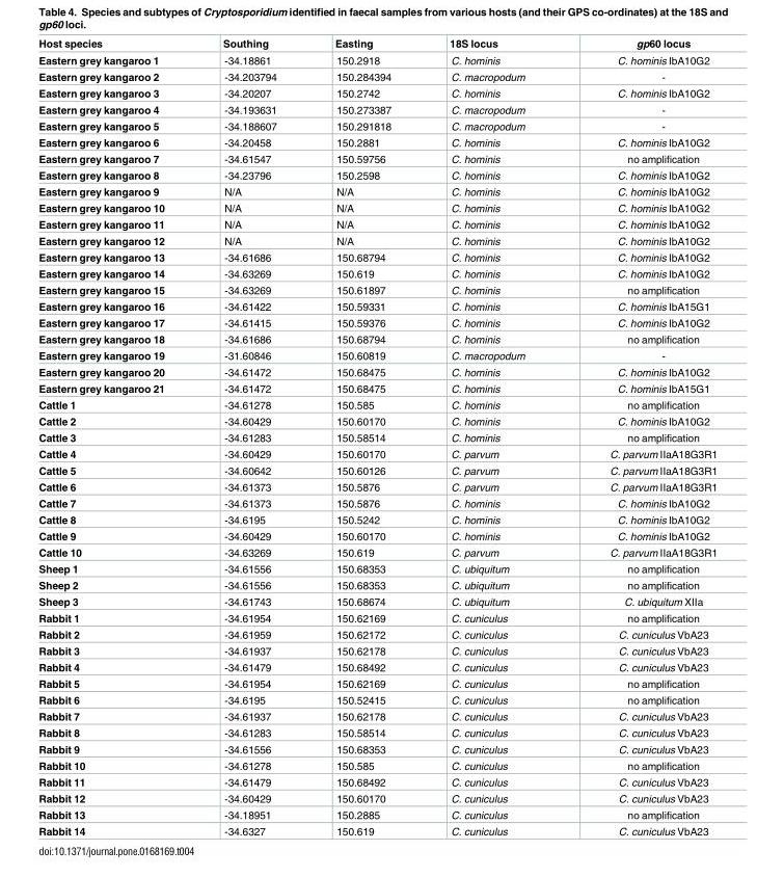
<table><thead><tr><td>Host species</td><td>Southing</td><td>Easting</td><td>18S locus</td><td>gp60 locus</td></tr></thead><tbody><tr><td>Eastern grey kangaroo 1</td><td>-34.18861</td><td>150.2918</td><td>C. hominis</td><td>C. hominis IbA10G2</td></tr><tr><td>Eastern grey kangaroo 2</td><td>-34.203794</td><td>150.284394</td><td>C. macropodum</td><td>-</td></tr><tr><td>Eastern grey kangaroo 3</td><td>-34.20207</td><td>150.2742</td><td>C. hominis</td><td>C. hominis IbA10G2</td></tr><tr><td>Eastern grey kangaroo 4</td><td>-34.193631</td><td>150.273387</td><td>C. macropodum</td><td>-</td></tr><tr><td>Eastern grey kangaroo 5</td><td>-34.188607</td><td>150.291818</td><td>C. macropodum</td><td>-</td></tr><tr><td>Eastern grey kangaroo 6</td><td>-34.20458</td><td>150.2881</td><td>C. hominis</td><td>C. hominis IbA10G2</td></tr><tr><td>Eastern grey kangaroo 7</td><td>-34.61547</td><td>150.59756</td><td>C. hominis</td><td>no amplification</td></tr><tr><td>Eastern grey kangaroo 8</td><td>-34.23796</td><td>150.2598</td><td>C. hominis</td><td>C. hominis IbA10G2</td></tr><tr><td>Eastern grey kangaroo 9</td><td>N/A</td><td>N/A</td><td>C. hominis</td><td>C. hominis IbA10G2</td></tr><tr><td>Eastern grey kangaroo 10</td><td>N/A</td><td>N/A</td><td>C. hominis</td><td>C. hominis IbA10G2</td></tr><tr><td>Eastern grey kangaroo 11</td><td>N/A</td><td>N/A</td><td>C. hominis</td><td>C. hominis IbA10G2</td></tr><tr><td>Eastern grey kangaroo 12</td><td>N/A</td><td>N/A</td><td>C. hominis</td><td>C. hominis IbA10G2</td></tr><tr><td>Eastern grey kangaroo 13</td><td>-34.61686</td><td>150.68794</td><td>C. hominis</td><td>C. hominis IbA10G2</td></tr><tr><td>Eastern grey kangaroo 14</td><td>-34.63269</td><td>150.619</td><td>C. hominis</td><td>C. hominis IbA10G2</td></tr><tr><td>Eastern grey kangaroo 15</td><td>-34.63269</td><td>150.61897</td><td>C. hominis</td><td>no amplification</td></tr><tr><td>Eastern grey kangaroo 16</td><td>-34.61422</td><td>150.59331</td><td>C. hominis</td><td>C. hominis IbA15G1</td></tr><tr><td>Eastern grey kangaroo 17</td><td>-34.61415</td><td>150.59376</td><td>C. hominis</td><td>C. hominis IbA10G2</td></tr><tr><td>Eastern grey kangaroo 18</td><td>-34.61686</td><td>150.68794</td><td>C. hominis</td><td>no amplification</td></tr><tr><td>Eastern grey kangaroo 19</td><td>-31.60846</td><td>150.60819</td><td>C. macropodum</td><td>-</td></tr><tr><td>Eastern grey kangaroo 20</td><td>-34.61472</td><td>150.68475</td><td>C. hominis</td><td>C. hominis IbA10G2</td></tr><tr><td>Eastern grey kangaroo 21</td><td>-34.61472</td><td>150.68475</td><td>C. hominis</td><td>C. hominis IbA15G1</td></tr><tr><td>Cattle 1</td><td>-34.61278</td><td>150.585</td><td>C. hominis</td><td>no amplification</td></tr><tr><td>Cattle 2</td><td>-34.60429</td><td>150.60170</td><td>C. hominis</td><td>C. hominis IbA10G2</td></tr><tr><td>Cattle 3</td><td>-34.61283</td><td>150.58514</td><td>C. hominis</td><td>no amplification</td></tr><tr><td>Cattle 4</td><td>-34.60429</td><td>150.60170</td><td>C. parvum</td><td>C. parvum IIaA18G3R1</td></tr><tr><td>Cattle 5</td><td>-34.60642</td><td>150.60126</td><td>C. parvum</td><td>C. parvum IIaA18G3R1</td></tr><tr><td>Cattle 6</td><td>-34.61373</td><td>150.5876</td><td>C. parvum</td><td>C. parvum IIaA18G3R1</td></tr><tr><td>Cattle 7</td><td>-34.61373</td><td>150.5876</td><td>C. hominis</td><td>C. hominis IbA10G2</td></tr><tr><td>Cattle 8</td><td>-34.6195</td><td>150.5242</td><td>C. hominis</td><td>C. hominis IbA10G2</td></tr><tr><td>Cattle 9</td><td>-34.60429</td><td>150.60170</td><td>C. hominis</td><td>C. hominis IbA10G2</td></tr><tr><td>Cattle 10</td><td>-34.63269</td><td>150.619</td><td>C. parvum</td><td>C. parvum IIaA18G3R1</td></tr><tr><td>Sheep 1</td><td>-34.61556</td><td>150.68353</td><td>C. ubiquitum</td><td>no amplification</td></tr><tr><td>Sheep 2</td><td>-34.61556</td><td>150.68353</td><td>C. ubiquitum</td><td>no amplification</td></tr><tr><td>Sheep 3</td><td>-34.61743</td><td>150.68674</td><td>C. ubiquitum</td><td>C. ubiquitum XIIa</td></tr><tr><td>Rabbit 1</td><td>-34.61954</td><td>150.62169</td><td>C. cuniculus</td><td>no amplification</td></tr><tr><td>Rabbit 2</td><td>-34.61959</td><td>150.62172</td><td>C. cuniculus</td><td>C. cuniculus VbA23</td></tr><tr><td>Rabbit 3</td><td>-34.61937</td><td>150.62178</td><td>C. cuniculus</td><td>C. cuniculus VbA23</td></tr><tr><td>Rabbit 4</td><td>-34.61479</td><td>150.68492</td><td>C. cuniculus</td><td>C. cuniculus VbA23</td></tr><tr><td>Rabbit 5</td><td>-34.61954</td><td>150.62169</td><td>C. cuniculus</td><td>no amplification</td></tr><tr><td>Rabbit 6</td><td>-34.6195</td><td>150.52415</td><td>C. cuniculus</td><td>no amplification</td></tr><tr><td>Rabbit 7</td><td>-34.61937</td><td>150.62178</td><td>C. cuniculus</td><td>C. cuniculus VbA23</td></tr><tr><td>Rabbit 8</td><td>-34.61283</td><td>150.58514</td><td>C. cuniculus</td><td>C. cuniculus VbA23</td></tr><tr><td>Rabbit 9</td><td>-34.61556</td><td>150.68353</td><td>C. cuniculus</td><td>C. cuniculus VbA23</td></tr><tr><td>Rabbit 10</td><td>-34.61278</td><td>150.585</td><td>C. cuniculus</td><td>no amplification</td></tr><tr><td>Rabbit 11</td><td>-34.61479</td><td>150.68492</td><td>C. cuniculus</td><td>C. cuniculus VbA23</td></tr><tr><td>Rabbit 12</td><td>-34.60429</td><td>150.60170</td><td>C. cuniculus</td><td>C. cuniculus VbA23</td></tr><tr><td>Rabbit 13</td><td>-34.18951</td><td>150.2885</td><td>C. cuniculus</td><td>no amplification</td></tr><tr><td>Rabbit 14</td><td>-34.6327</td><td>150.619</td><td>C. cuniculus</td><td>C. cuniculus VbA23</td></tr></tbody></table>